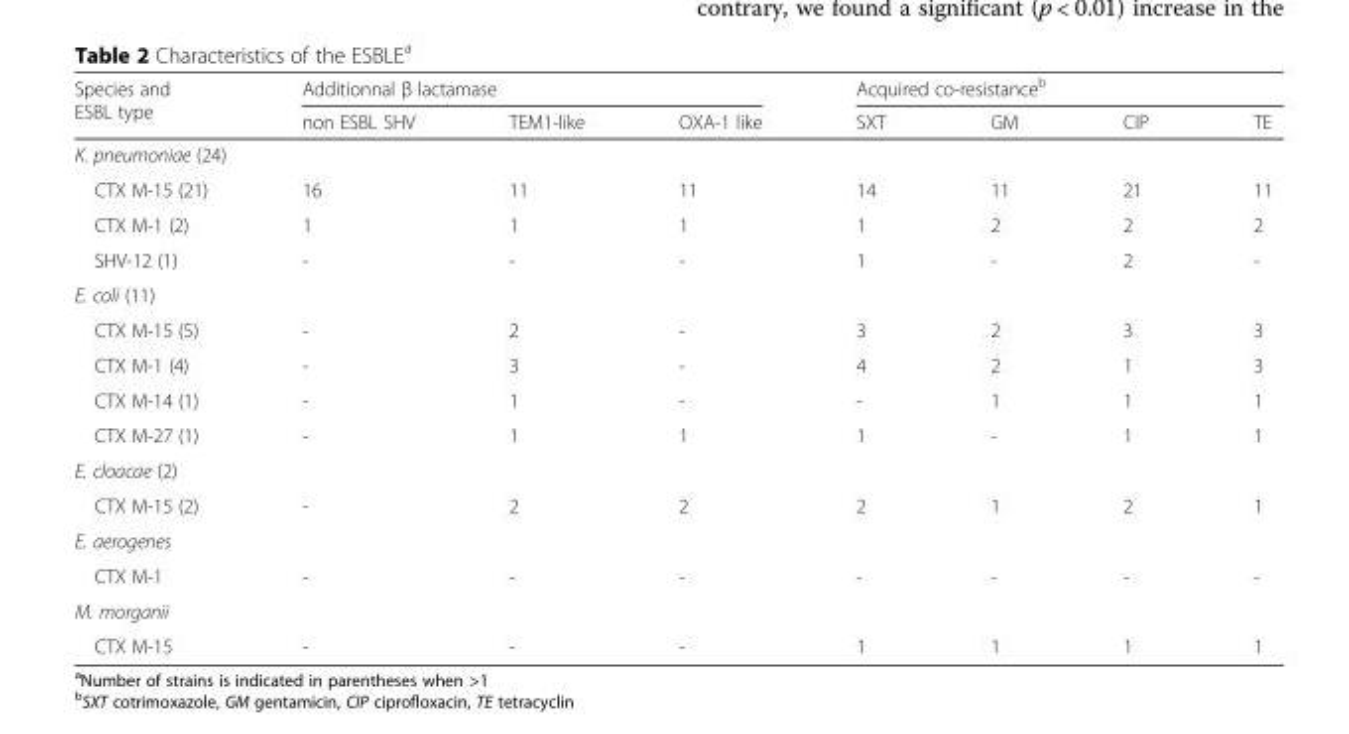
<table><thead><tr><td rowspan="2">Species and ESBL type</td><td colspan="3">Additionnal β lactamase</td><td colspan="4">Acquired co-resistance<sup>b</sup></td></tr><tr><td>non ESBL SHV</td><td>TEM1-like</td><td>OXA-1 like</td><td>SXT</td><td>GM</td><td>CIP</td><td>TE</td></tr></thead><tbody><tr><td colspan="8">K. pneumoniae (24)</td></tr><tr><td>CTX M-15 (21)</td><td>16</td><td>11</td><td>11</td><td>14</td><td>11</td><td>21</td><td>11</td></tr><tr><td>CTX M-1 (2)</td><td>1</td><td>1</td><td>1</td><td>1</td><td>2</td><td>2</td><td>2</td></tr><tr><td>SHV-12 (1)</td><td>-</td><td>-</td><td>-</td><td>1</td><td>-</td><td>2</td><td>-</td></tr><tr><td colspan="8">E. coli (11)</td></tr><tr><td>CTX M-15 (5)</td><td>-</td><td>2</td><td>-</td><td>3</td><td>2</td><td>3</td><td>3</td></tr><tr><td>CTX M-1 (4)</td><td>-</td><td>3</td><td>-</td><td>4</td><td>2</td><td>1</td><td>3</td></tr><tr><td>CTX M-14 (1)</td><td>-</td><td>1</td><td>-</td><td>-</td><td>1</td><td>1</td><td>1</td></tr><tr><td>CTX M-27 (1)</td><td>-</td><td>1</td><td>1</td><td>1</td><td>-</td><td>1</td><td>1</td></tr><tr><td colspan="8">E. cloacae (2)</td></tr><tr><td>CTX M-15 (2)</td><td>-</td><td>2</td><td>2</td><td>2</td><td>1</td><td>2</td><td>1</td></tr><tr><td colspan="8">E. aerogenes</td></tr><tr><td>CTX M-1</td><td>-</td><td>-</td><td>-</td><td>-</td><td>-</td><td>-</td><td>-</td></tr><tr><td colspan="8">M. morganii</td></tr><tr><td>CTX M-15</td><td>-</td><td>-</td><td>-</td><td>1</td><td>1</td><td>1</td><td>1</td></tr></tbody></table>